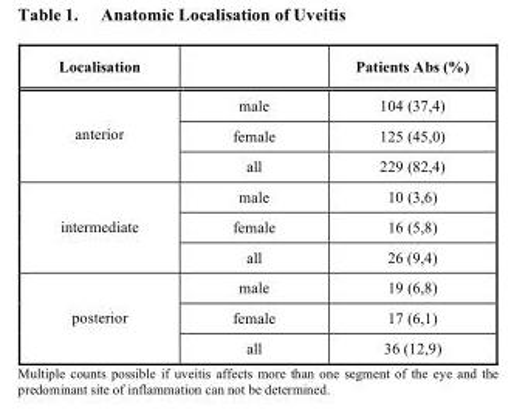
<table><thead><tr><td>Localisation</td><td></td><td>Patients Abs (%)</td></tr></thead><tbody><tr><td rowspan="3">anterior</td><td>male</td><td>104 (37,4)</td></tr><tr><td>female</td><td>125 (45,0)</td></tr><tr><td>all</td><td>229 (82,4)</td></tr><tr><td rowspan="3">intermediate</td><td>male</td><td>10 (3,6)</td></tr><tr><td>female</td><td>16 (5,8)</td></tr><tr><td>all</td><td>26 (9,4)</td></tr><tr><td rowspan="3">posterior</td><td>male</td><td>19 (6,8)</td></tr><tr><td>female</td><td>17 (6,1)</td></tr><tr><td>all</td><td>36 (12,9)</td></tr></tbody></table>